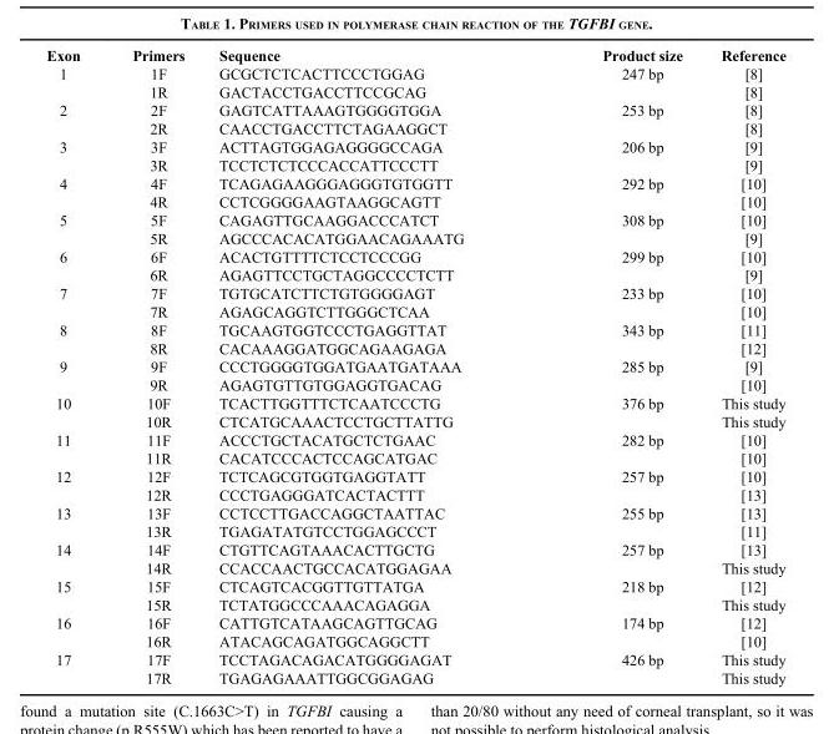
<table><thead><tr><td>Exon</td><td>Primers</td><td>Sequence</td><td>Product size</td><td>Reference</td></tr></thead><tbody><tr><td rowspan="2">1</td><td>1F</td><td>GCGCTCTCACTTCCCTGGAG</td><td>247 bp</td><td>[8]</td></tr><tr><td>1R</td><td>GACTACCTGACCTTCCGCAG</td><td></td><td>[8]</td></tr><tr><td rowspan="2">2</td><td>2F</td><td>GAGTCATTAAAGTGGGGTGGA</td><td>253 bp</td><td>[8]</td></tr><tr><td>2R</td><td>CAACCTGACCTTCTAGAAGGCT</td><td></td><td>[8]</td></tr><tr><td rowspan="2">3</td><td>3F</td><td>ACTTAGTGGAGAGGGGCCAGA</td><td>206 bp</td><td>[9]</td></tr><tr><td>3R</td><td>TCCTCTCTCCCACCATTCCCTT</td><td></td><td>[9]</td></tr><tr><td rowspan="2">4</td><td>4F</td><td>TCAGAGAAGGGAGGGTGTGGTT</td><td>292 bp</td><td>[10]</td></tr><tr><td>4R</td><td>CCTCGGGGAAGTAAGGCAGTT</td><td></td><td>[10]</td></tr><tr><td rowspan="2">5</td><td>5F</td><td>CAGAGTTGCAAGGACCCATCT</td><td>308 bp</td><td>[10]</td></tr><tr><td>5R</td><td>AGCCCACACATGGAACAGAAATG</td><td></td><td>[9]</td></tr><tr><td rowspan="2">6</td><td>6F</td><td>ACACTGTTTTCTCCTCCCGG</td><td>299 bp</td><td>[10]</td></tr><tr><td>6R</td><td>AGAGTTCCTGCTAGGCCCCTCTT</td><td></td><td>[9]</td></tr><tr><td rowspan="2">7</td><td>7F</td><td>TGTGCATCTTCTGTGGGGAGT</td><td>233 bp</td><td>[10]</td></tr><tr><td>7R</td><td>AGAGCAGGTCTTGGGCTCAA</td><td></td><td>[10]</td></tr><tr><td rowspan="2">8</td><td>8F</td><td>TGCAAGTGGTCCCTGAGGTTAT</td><td>343 bp</td><td>[11]</td></tr><tr><td>8R</td><td>CACAAAGGATGGCAGAAGAGA</td><td></td><td>[12]</td></tr><tr><td rowspan="2">9</td><td>9F</td><td>CCCTGGGGTGGATGAATGATAAA</td><td>285 bp</td><td>[9]</td></tr><tr><td>9R</td><td>AGAGTGTTGTGGAGGTGACAG</td><td></td><td>[10]</td></tr><tr><td rowspan="2">10</td><td>10F</td><td>TCACTTGGTTTCTCAATCCCTG</td><td>376 bp</td><td>This study</td></tr><tr><td>10R</td><td>CTCATGCAAACTCCTGCTTATTG</td><td></td><td>This study</td></tr><tr><td rowspan="2">11</td><td>11F</td><td>ACCCTGCTACATGCTCTGAAC</td><td>282 bp</td><td>[10]</td></tr><tr><td>11R</td><td>CACATCCCACTCCAGCATGAC</td><td></td><td>[10]</td></tr><tr><td rowspan="2">12</td><td>12F</td><td>TCTCAGCGTGGTGAGGTATT</td><td>257 bp</td><td>[10]</td></tr><tr><td>12R</td><td>CCCTGAGGGATCACTACTTT</td><td></td><td>[13]</td></tr><tr><td rowspan="2">13</td><td>13F</td><td>CCTCCTTGACCAGGCTAATTAC</td><td>255 bp</td><td>[13]</td></tr><tr><td>13R</td><td>TGAGATATGTCCTGGAGCCCT</td><td></td><td>[11]</td></tr><tr><td rowspan="2">14</td><td>14F</td><td>CTGTTCAGTAAACACTTGCTG</td><td>257 bp</td><td>[13]</td></tr><tr><td>14R</td><td>CCACCAACTGCCACATGGAGAA</td><td></td><td>This study</td></tr><tr><td rowspan="2">15</td><td>15F</td><td>CTCAGTCACGGTTGTTATGA</td><td>218 bp</td><td>[12]</td></tr><tr><td>15R</td><td>TCTATGGCCCAAACAGAGGA</td><td></td><td>This study</td></tr><tr><td rowspan="2">16</td><td>16F</td><td>CATTGTCATAAGCAGTTGCAG</td><td>174 bp</td><td>[12]</td></tr><tr><td>16R</td><td>ATACAGCAGATGGCAGGCTT</td><td></td><td>[10]</td></tr><tr><td rowspan="2">17</td><td>17F</td><td>TCCTAGACAGACATGGGGAGAT</td><td>426 bp</td><td>This study</td></tr><tr><td>17R</td><td>TGAGAGAAATTGGCGGAGAG</td><td></td><td>This study</td></tr></tbody></table>